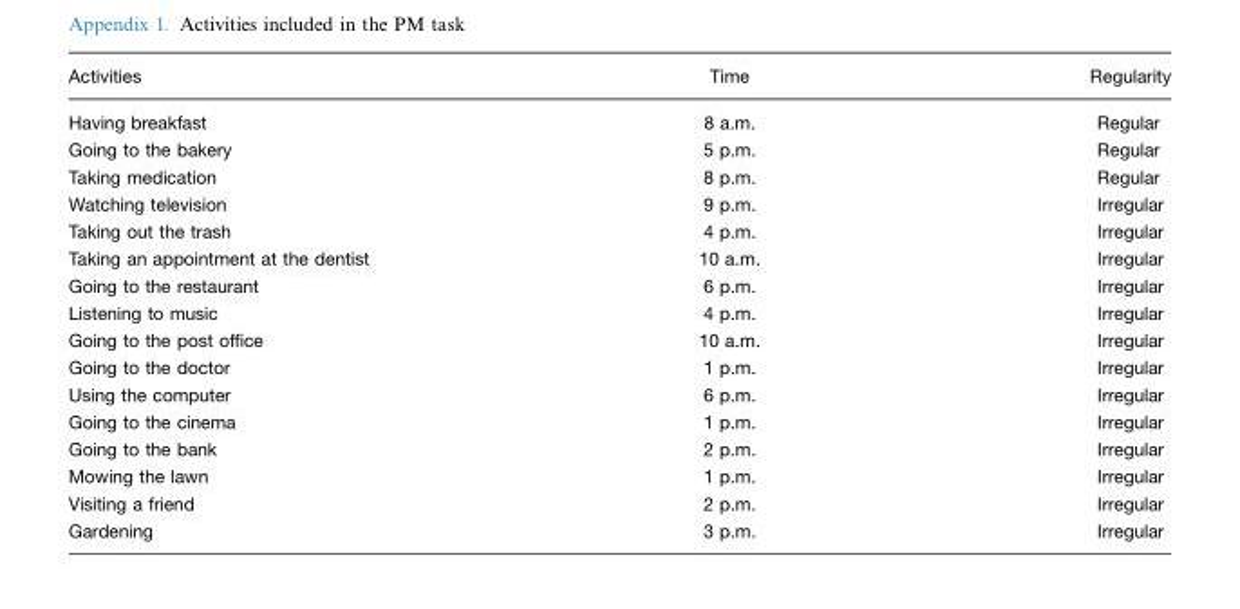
<table><thead><tr><td>Activities</td><td>Time</td><td>Regularity</td></tr></thead><tbody><tr><td>Having breakfast</td><td>8 a.m.</td><td>Regular</td></tr><tr><td>Going to the bakery</td><td>5 p.m.</td><td>Regular</td></tr><tr><td>Taking medication</td><td>8 p.m.</td><td>Regular</td></tr><tr><td>Watching television</td><td>9 p.m.</td><td>Irregular</td></tr><tr><td>Taking out the trash</td><td>4 p.m.</td><td>Irregular</td></tr><tr><td>Taking an appointment at the dentist</td><td>10 a.m.</td><td>Irregular</td></tr><tr><td>Going to the restaurant</td><td>6 p.m.</td><td>Irregular</td></tr><tr><td>Listening to music</td><td>4 p.m.</td><td>Irregular</td></tr><tr><td>Going to the post office</td><td>10 a.m.</td><td>Irregular</td></tr><tr><td>Going to the doctor</td><td>1 p.m.</td><td>Irregular</td></tr><tr><td>Using the computer</td><td>6 p.m.</td><td>Irregular</td></tr><tr><td>Going to the cinema</td><td>1 p.m.</td><td>Irregular</td></tr><tr><td>Going to the bank</td><td>2 p.m.</td><td>Irregular</td></tr><tr><td>Mowing the lawn</td><td>1 p.m.</td><td>Irregular</td></tr><tr><td>Visiting a friend</td><td>2 p.m.</td><td>Irregular</td></tr><tr><td>Gardening</td><td>3 p.m.</td><td>Irregular</td></tr></tbody></table>